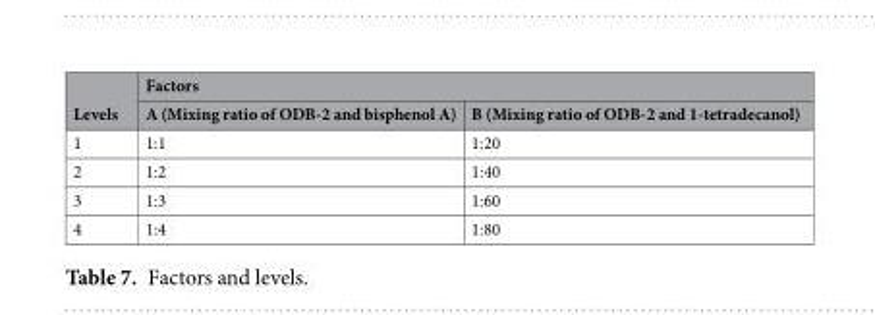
<table><thead><tr><td rowspan="2">Levels</td><td colspan="2">Factors</td></tr><tr><td>A (Mixing ratio of ODB-2 and bisphenol A)</td><td>B (Mixing ratio of ODB-2 and 1-tetradecanol)</td></tr></thead><tbody><tr><td>1</td><td>1:1</td><td>1:20</td></tr><tr><td>2</td><td>1:2</td><td>1:40</td></tr><tr><td>3</td><td>1:3</td><td>1:60</td></tr><tr><td>4</td><td>1:4</td><td>1:80</td></tr></tbody></table>